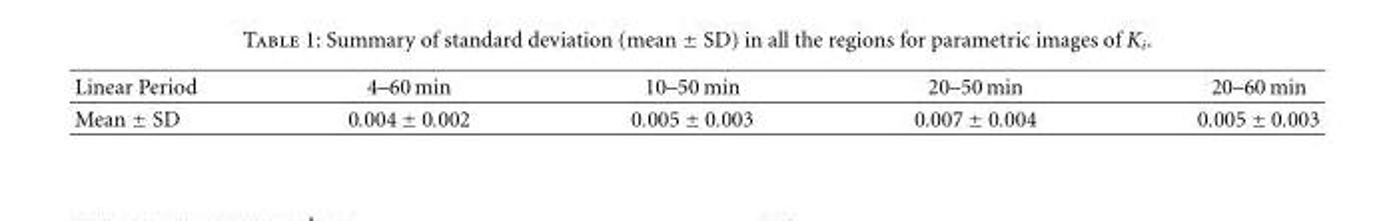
<table><thead><tr><td>Linear Period</td><td>4–60 min</td><td>10–50 min</td><td>20–50 min</td><td>20–60 min</td></tr></thead><tbody><tr><td>Mean ± SD</td><td>0.004 ± 0.002</td><td>0.005 ± 0.003</td><td>0.007 ± 0.004</td><td>0.005 ± 0.003</td></tr></tbody></table>